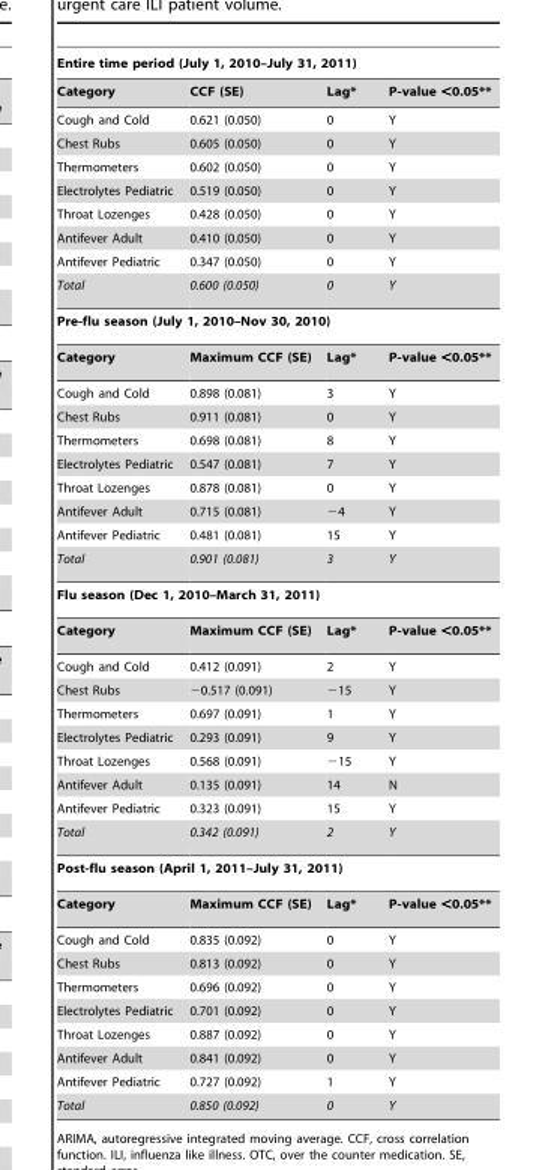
<table><thead><tr><td colspan="4">Entire time period (July 1, 2010–July 31, 2011)</td></tr><tr><td>Category</td><td>CCF (SE)</td><td>Lag*</td><td>P-value &lt;0.05**</td></tr></thead><tbody><tr><td>Cough and Cold</td><td>0.621 (0.050)</td><td>0</td><td>Y</td></tr><tr><td>Chest Rubs</td><td>0.605 (0.050)</td><td>0</td><td>Y</td></tr><tr><td>Thermometers</td><td>0.602 (0.050)</td><td>0</td><td>Y</td></tr><tr><td>Electrolytes Pediatric</td><td>0.519 (0.050)</td><td>0</td><td>Y</td></tr><tr><td>Throat Lozenges</td><td>0.428 (0.050)</td><td>0</td><td>Y</td></tr><tr><td>Antifever Adult</td><td>0.410 (0.050)</td><td>0</td><td>Y</td></tr><tr><td>Antifever Pediatric</td><td>0.347 (0.050)</td><td>0</td><td>Y</td></tr><tr><td>Total</td><td>0.600 (0.050)</td><td>0</td><td>Y</td></tr><tr><td colspan="4">Pre-flu season (July 1, 2010–Nov 30, 2010)</td></tr><tr><td>Category</td><td>Maximum CCF (SE)</td><td>Lag*</td><td>P-value &lt;0.05**</td></tr><tr><td>Cough and Cold</td><td>0.898 (0.081)</td><td>3</td><td>Y</td></tr><tr><td>Chest Rubs</td><td>0.911 (0.081)</td><td>0</td><td>Y</td></tr><tr><td>Thermometers</td><td>0.698 (0.081)</td><td>8</td><td>Y</td></tr><tr><td>Electrolytes Pediatric</td><td>0.547 (0.081)</td><td>7</td><td>Y</td></tr><tr><td>Throat Lozenges</td><td>0.878 (0.081)</td><td>0</td><td>Y</td></tr><tr><td>Antifever Adult</td><td>0.715 (0.081)</td><td>−4</td><td>Y</td></tr><tr><td>Antifever Pediatric</td><td>0.481 (0.081)</td><td>15</td><td>Y</td></tr><tr><td>Total</td><td>0.901 (0.081)</td><td>3</td><td>Y</td></tr><tr><td colspan="4">Flu season (Dec 1, 2010–March 31, 2011)</td></tr><tr><td>Category</td><td>Maximum CCF (SE)</td><td>Lag*</td><td>P-value &lt;0.05**</td></tr><tr><td>Cough and Cold</td><td>0.412 (0.091)</td><td>2</td><td>Y</td></tr><tr><td>Chest Rubs</td><td>−0.517 (0.091)</td><td>−15</td><td>Y</td></tr><tr><td>Thermometers</td><td>0.697 (0.091)</td><td>1</td><td>Y</td></tr><tr><td>Electrolytes Pediatric</td><td>0.293 (0.091)</td><td>9</td><td>Y</td></tr><tr><td>Throat Lozenges</td><td>0.568 (0.091)</td><td>−15</td><td>Y</td></tr><tr><td>Antifever Adult</td><td>0.135 (0.091)</td><td>14</td><td>N</td></tr><tr><td>Antifever Pediatric</td><td>0.323 (0.091)</td><td>15</td><td>Y</td></tr><tr><td>Total</td><td>0.342 (0.091)</td><td>2</td><td>Y</td></tr><tr><td colspan="4">Post-flu season (April 1, 2011–July 31, 2011)</td></tr><tr><td>Category</td><td>Maximum CCF (SE)</td><td>Lag*</td><td>P-value &lt;0.05**</td></tr><tr><td>Cough and Cold</td><td>0.835 (0.092)</td><td>0</td><td>Y</td></tr><tr><td>Chest Rubs</td><td>0.813 (0.092)</td><td>0</td><td>Y</td></tr><tr><td>Thermometers</td><td>0.696 (0.092)</td><td>0</td><td>Y</td></tr><tr><td>Electrolytes Pediatric</td><td>0.701 (0.092)</td><td>0</td><td>Y</td></tr><tr><td>Throat Lozenges</td><td>0.887 (0.092)</td><td>0</td><td>Y</td></tr><tr><td>Antifever Adult</td><td>0.841 (0.092)</td><td>0</td><td>Y</td></tr><tr><td>Antifever Pediatric</td><td>0.727 (0.092)</td><td>1</td><td>Y</td></tr><tr><td>Total</td><td>0.850 (0.092)</td><td>0</td><td>Y</td></tr></tbody></table>